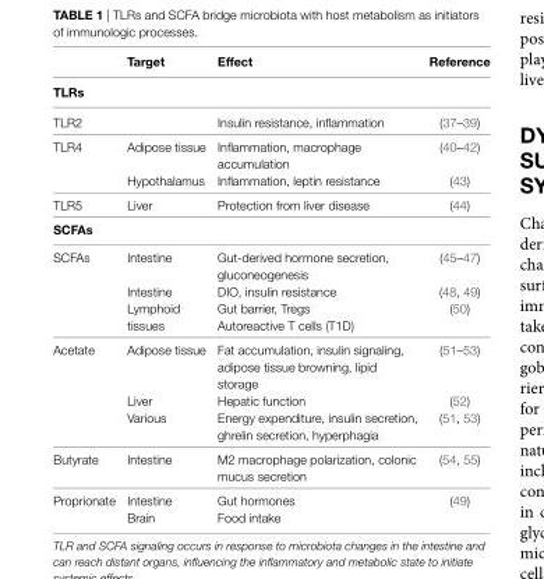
<table><thead><tr><td></td><td>Target</td><td>effect</td><td>Reference</td></tr><tr><td colspan="4">TLRs</td></tr></thead><tbody><tr><td>TLR2</td><td></td><td>Insulin resistance, inflammation</td><td>(37–39)</td></tr><tr><td rowspan="2">TLR4</td><td>Adipose tissue</td><td>Inflammation, macrophage accumulation</td><td>(40–42)</td></tr><tr><td>Hypothalamus</td><td>Inflammation, leptin resistance</td><td>(43)</td></tr><tr><td>TLR5</td><td>Liver</td><td>Protection from liver disease</td><td>(44)</td></tr><tr><td colspan="4">SCFAs</td></tr><tr><td rowspan="4">SCFAs</td><td>Intestine</td><td>Gut-derived hormone secretion, gluconeogenesis</td><td>(45–47)</td></tr><tr><td>Intestine</td><td>DIO, insulin resistance</td><td>(48, 49)</td></tr><tr><td rowspan="2">Lymphoid tissues</td><td>Gut barrier, Tregs</td><td>(50)</td></tr><tr><td>Autoreactive T cells (T1D)</td><td></td></tr><tr><td rowspan="3">Acetate</td><td>Adipose tissue</td><td>Fat accumulation, insulin signaling, adipose tissue browning, lipid storage</td><td>(51–53)</td></tr><tr><td>Liver</td><td>Hepatic function</td><td>(52)</td></tr><tr><td>Various</td><td>Energy expenditure, insulin secretion, ghrelin secretion, hyperphagia</td><td>(51, 53)</td></tr><tr><td>Butyrate</td><td>Intestine</td><td>M2 macrophage polarization, colonic mucus secretion</td><td>(54, 55)</td></tr><tr><td rowspan="2">Proprionate</td><td>Intestine</td><td>Gut hormones</td><td rowspan="2">(49)</td></tr><tr><td>Brain</td><td>Food intake</td></tr></tbody></table>